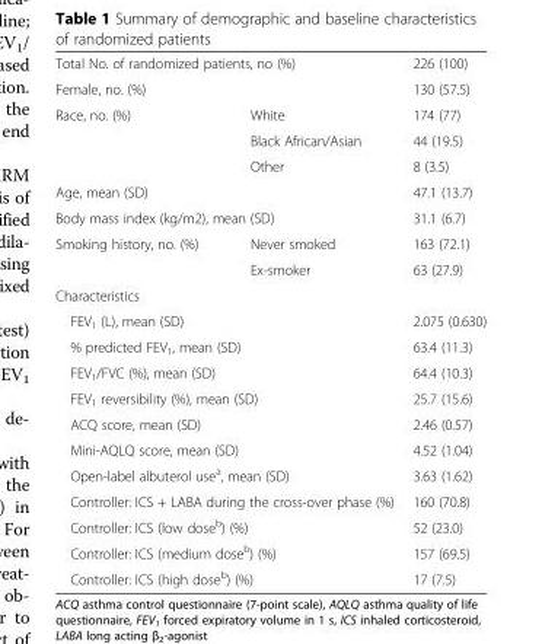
<table><tbody><tr><td colspan="2">Total No. of randomized patients, no (%)</td><td>226 (100)</td></tr><tr><td colspan="2">Female, no. (%)</td><td>130 (57.5)</td></tr><tr><td rowspan="3">Race, no. (%)</td><td>White</td><td>174 (77)</td></tr><tr><td>Black African/Asian</td><td>44 (19.5)</td></tr><tr><td>Other</td><td>8 (3.5)</td></tr><tr><td colspan="2">Age, mean (SD)</td><td>47.1 (13.7)</td></tr><tr><td colspan="2">Body mass index (kg/m2), mean (SD)</td><td>31.1 (6.7)</td></tr><tr><td rowspan="2">Smoking history, no. (%)</td><td>Never smoked</td><td>163 (72.1)</td></tr><tr><td>Ex-smoker</td><td>63 (27.9)</td></tr><tr><td colspan="3">Characteristics</td></tr><tr><td colspan="2">FEV<sub>1</sub> (L), mean (SD)</td><td>2.075 (0.630)</td></tr><tr><td colspan="2">% predicted FEV<sub>1</sub>, mean (SD)</td><td>63.4 (11.3)</td></tr><tr><td colspan="2">FEV<sub>1</sub>/FVC (%), mean (SD)</td><td>64.4 (10.3)</td></tr><tr><td colspan="2">FEV<sub>1</sub> reversibility (%), mean (SD)</td><td>25.7 (15.6)</td></tr><tr><td colspan="2">ACQ score, mean (SD)</td><td>2.46 (0.57)</td></tr><tr><td colspan="2">Mini-AQLQ score, mean (SD)</td><td>4.52 (1.04)</td></tr><tr><td colspan="2">Open-label albuterol use<sup>a</sup>, mean (SD)</td><td>3.63 (1.62)</td></tr><tr><td colspan="2">Controller: ICS + LABA during the cross-over phase (%)</td><td>160 (70.8)</td></tr><tr><td colspan="2">Controller: ICS (low dose<sup>b</sup>) (%)</td><td>52 (23.0)</td></tr><tr><td colspan="2">Controller: ICS (medium dose<sup>b</sup>) (%)</td><td>157 (69.5)</td></tr><tr><td colspan="2">Controller: ICS (high dose<sup>b</sup>) (%)</td><td>17 (7.5)</td></tr></tbody></table>